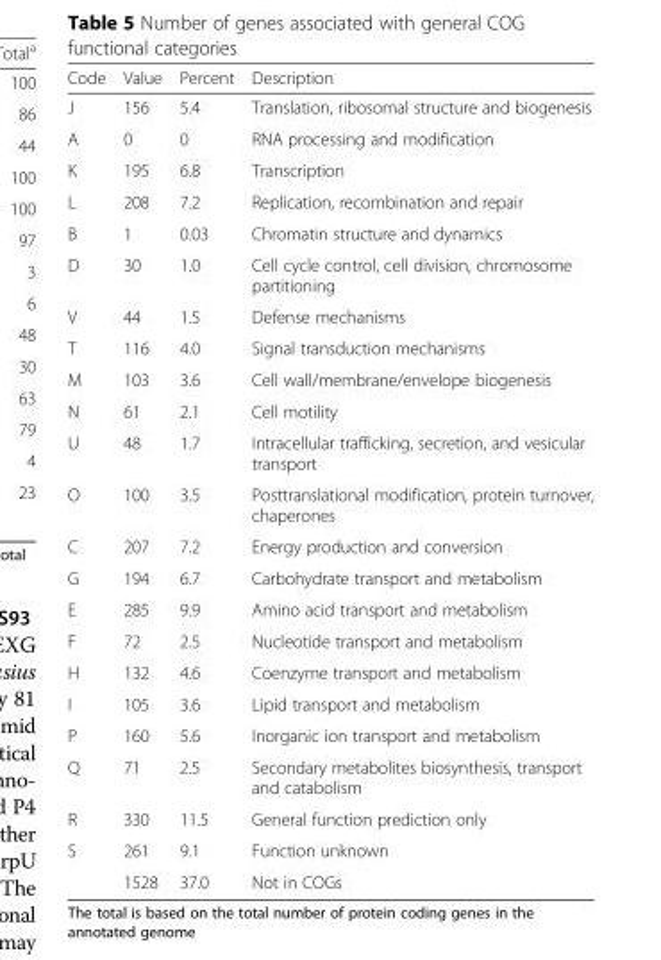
<table><thead><tr><td>Code</td><td>Value</td><td>Percent</td><td>Description</td></tr></thead><tbody><tr><td>J</td><td>156</td><td>5.4</td><td>Translation, ribosomal structure and biogenesis</td></tr><tr><td>A</td><td>0</td><td>0</td><td>RNA processing and modification</td></tr><tr><td>K</td><td>195</td><td>6.8</td><td>Transcription</td></tr><tr><td>L</td><td>208</td><td>7.2</td><td>Replication, recombination and repair</td></tr><tr><td>B</td><td>1</td><td>0.03</td><td>Chromatin structure and dynamics</td></tr><tr><td>D</td><td>30</td><td>1.0</td><td>Cell cycle control, cell division, chromosome partitioning</td></tr><tr><td>V</td><td>44</td><td>1.5</td><td>Defense mechanisms</td></tr><tr><td>T</td><td>116</td><td>4.0</td><td>Signal transduction mechanisms</td></tr><tr><td>M</td><td>103</td><td>3.6</td><td>Cell wall/membrane/envelope biogenesis</td></tr><tr><td>N</td><td>61</td><td>2.1</td><td>Cell motility</td></tr><tr><td>U</td><td>48</td><td>1.7</td><td>Intracellular trafficking, secretion, and vesicular transport</td></tr><tr><td>O</td><td>100</td><td>3.5</td><td>Posttranslational modification, protein turnover, chaperones</td></tr><tr><td>C</td><td>207</td><td>7.2</td><td>Energy production and conversion</td></tr><tr><td>G</td><td>194</td><td>6.7</td><td>Carbohydrate transport and metabolism</td></tr><tr><td>E</td><td>285</td><td>9.9</td><td>Amino acid transport and metabolism</td></tr><tr><td>F</td><td>72</td><td>2.5</td><td>Nucleotide transport and metabolism</td></tr><tr><td>H</td><td>132</td><td>4.6</td><td>Coenzyme transport and metabolism</td></tr><tr><td>I</td><td>105</td><td>3.6</td><td>Lipid transport and metabolism</td></tr><tr><td>P</td><td>160</td><td>5.6</td><td>Inorganic ion transport and metabolism</td></tr><tr><td>Q</td><td>71</td><td>2.5</td><td>Secondary metabolites biosynthesis, transport and catabolism</td></tr><tr><td>R</td><td>330</td><td>11.5</td><td>General function prediction only</td></tr><tr><td rowspan="2">S</td><td>261</td><td>9.1</td><td>Function unknown</td></tr><tr><td>1528</td><td>37.0</td><td>Not in COGs</td></tr></tbody></table>